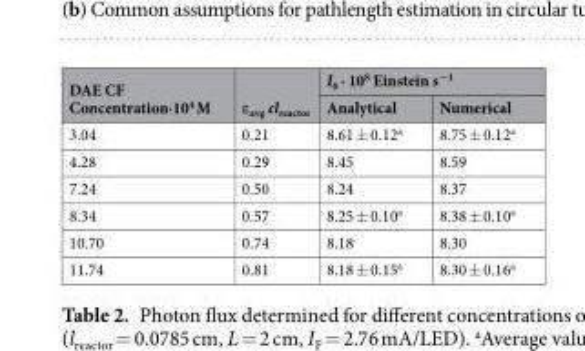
<table><thead><tr><td rowspan="2">DAE CF Concentration·10<sup>4</sup> M</td><td rowspan="2">ε<sub>avg</sub> cl<sub>reactor</sub></td><td colspan="2">I<sub>0</sub> · 10<sup>8</sup> Einstein s<sup>−1</sup></td></tr><tr><td>Analytical</td><td>Numerical</td></tr></thead><tbody><tr><td>3.04</td><td>0.21</td><td>8.61 ± 0.12<sup>a</sup></td><td>8.75 ± 0.12<sup>a</sup></td></tr><tr><td>4.28</td><td>0.29</td><td>8.45</td><td>8.59</td></tr><tr><td>7.24</td><td>0.50</td><td>8.24</td><td>8.37</td></tr><tr><td>8.34</td><td>0.57</td><td>8.25 ± 0.10<sup>a</sup></td><td>8.38 ± 0.10<sup>a</sup></td></tr><tr><td>10.70</td><td>0.74</td><td>8.18</td><td>8.30</td></tr><tr><td>11.74</td><td>0.81</td><td>8.18 ± 0.15<sup>a</sup></td><td>8.30 ± 0.16<sup>a</sup></td></tr></tbody></table>